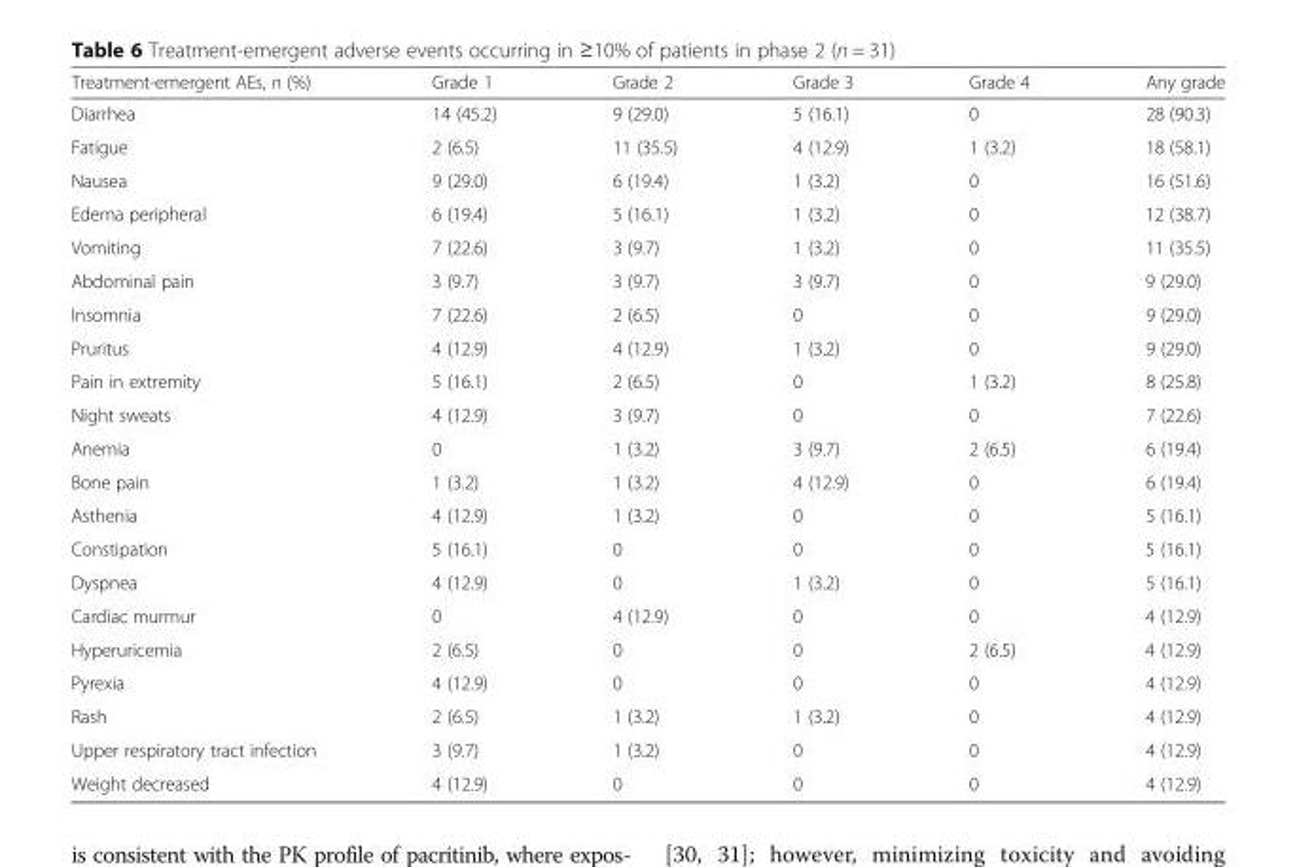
<table><thead><tr><td>Treatment-emergent AEs, n (%)</td><td>Grade 1</td><td>Grade 2</td><td>Grade 3</td><td>Grade 4</td><td>Any grade</td></tr></thead><tbody><tr><td>Diarrhea</td><td>14 (45.2)</td><td>9 (29.0)</td><td>5 (16.1)</td><td>0</td><td>28 (90.3)</td></tr><tr><td>Fatigue</td><td>2 (6.5)</td><td>11 (35.5)</td><td>4 (12.9)</td><td>1 (3.2)</td><td>18 (58.1)</td></tr><tr><td>Nausea</td><td>9 (29.0)</td><td>6 (19.4)</td><td>1 (3.2)</td><td>0</td><td>16 (51.6)</td></tr><tr><td>Edema peripheral</td><td>6 (19.4)</td><td>5 (16.1)</td><td>1 (3.2)</td><td>0</td><td>12 (38.7)</td></tr><tr><td>Vomiting</td><td>7 (22.6)</td><td>3 (9.7)</td><td>1 (3.2)</td><td>0</td><td>11 (35.5)</td></tr><tr><td>Abdominal pain</td><td>3 (9.7)</td><td>3 (9.7)</td><td>3 (9.7)</td><td>0</td><td>9 (29.0)</td></tr><tr><td>Insomnia</td><td>7 (22.6)</td><td>2 (6.5)</td><td>0</td><td>0</td><td>9 (29.0)</td></tr><tr><td>Pruritus</td><td>4 (12.9)</td><td>4 (12.9)</td><td>1 (3.2)</td><td>0</td><td>9 (29.0)</td></tr><tr><td>Pain in extremity</td><td>5 (16.1)</td><td>2 (6.5)</td><td>0</td><td>1 (3.2)</td><td>8 (25.8)</td></tr><tr><td>Night sweats</td><td>4 (12.9)</td><td>3 (9.7)</td><td>0</td><td>0</td><td>7 (22.6)</td></tr><tr><td>Anemia</td><td>0</td><td>1 (3.2)</td><td>3 (9.7)</td><td>2 (6.5)</td><td>6 (19.4)</td></tr><tr><td>Bone pain</td><td>1 (3.2)</td><td>1 (3.2)</td><td>4 (12.9)</td><td>0</td><td>6 (19.4)</td></tr><tr><td>Asthenia</td><td>4 (12.9)</td><td>1 (3.2)</td><td>0</td><td>0</td><td>5 (16.1)</td></tr><tr><td>Constipation</td><td>5 (16.1)</td><td>0</td><td>0</td><td>0</td><td>5 (16.1)</td></tr><tr><td>Dyspnea</td><td>4 (12.9)</td><td>0</td><td>1 (3.2)</td><td>0</td><td>5 (16.1)</td></tr><tr><td>Cardiac murmur</td><td>0</td><td>4 (12.9)</td><td>0</td><td>0</td><td>4 (12.9)</td></tr><tr><td>Hyperuricemia</td><td>2 (6.5)</td><td>0</td><td>0</td><td>2 (6.5)</td><td>4 (12.9)</td></tr><tr><td>Pyrexia</td><td>4 (12.9)</td><td>0</td><td>0</td><td>0</td><td>4 (12.9)</td></tr><tr><td>Rash</td><td>2 (6.5)</td><td>1 (3.2)</td><td>1 (3.2)</td><td>0</td><td>4 (12.9)</td></tr><tr><td>Upper respiratory tract infection</td><td>3 (9.7)</td><td>1 (3.2)</td><td>0</td><td>0</td><td>4 (12.9)</td></tr><tr><td>Weight decreased</td><td>4 (12.9)</td><td>0</td><td>0</td><td>0</td><td>4 (12.9)</td></tr></tbody></table>